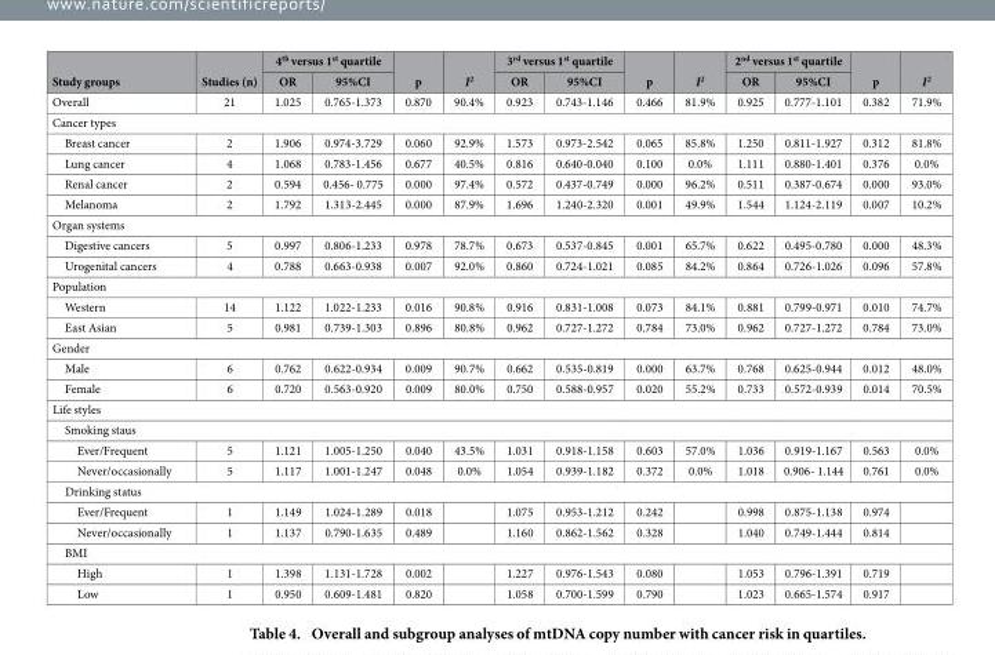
<table><thead><tr><td rowspan="2">Study groups</td><td rowspan="2">Studies (n)</td><td colspan="2">4<sup>th</sup> versus 1<sup>st</sup> quartile</td><td rowspan="2">p</td><td rowspan="2">I<sup>2</sup></td><td colspan="2">3<sup>rd</sup> versus 1<sup>st</sup> quartile</td><td rowspan="2">p</td><td rowspan="2">I<sup>2</sup></td><td colspan="2">2<sup>nd</sup> versus 1<sup>st</sup> quartile</td><td rowspan="2">p</td><td rowspan="2">I<sup>2</sup></td></tr><tr><td>OR</td><td>95%CI</td><td>OR</td><td>95%CI</td><td>OR</td><td>95%CI</td></tr></thead><tbody><tr><td>Overall</td><td>21</td><td>1.025</td><td>0.765-1.373</td><td>0.870</td><td>90.4%</td><td>0.923</td><td>0.743-1.146</td><td>0.466</td><td>81.9%</td><td>0.925</td><td>0.777-1.101</td><td>0.382</td><td>71.9%</td></tr><tr><td colspan="14">Cancer types</td></tr><tr><td>Breast cancer</td><td>2</td><td>1.906</td><td>0.974-3.729</td><td>0.060</td><td>92.9%</td><td>1.573</td><td>0.973-2.542</td><td>0.065</td><td>85.8%</td><td>1.250</td><td>0.811-1.927</td><td>0.312</td><td>81.8%</td></tr><tr><td>Lung cancer</td><td>4</td><td>1.068</td><td>0.783-1.456</td><td>0.677</td><td>40.5%</td><td>0.816</td><td>0.640-0.040</td><td>0.100</td><td>0.0%</td><td>1.111</td><td>0.880-1.401</td><td>0.376</td><td>0.0%</td></tr><tr><td>Renal cancer</td><td>2</td><td>0.594</td><td>0.456- 0.775</td><td>0.000</td><td>97.4%</td><td>0.572</td><td>0.437-0.749</td><td>0.000</td><td>96.2%</td><td>0.511</td><td>0.387-0.674</td><td>0.000</td><td>93.0%</td></tr><tr><td>Melanoma</td><td>2</td><td>1.792</td><td>1.313-2.445</td><td>0.000</td><td>87.9%</td><td>1.696</td><td>1.240-2.320</td><td>0.001</td><td>49.9%</td><td>1.544</td><td>1.124-2.119</td><td>0.007</td><td>10.2%</td></tr><tr><td colspan="14">Organ systems</td></tr><tr><td>Digestive cancers</td><td>5</td><td>0.997</td><td>0.806-1.233</td><td>0.978</td><td>78.7%</td><td>0.673</td><td>0.537-0.845</td><td>0.001</td><td>65.7%</td><td>0.622</td><td>0.495-0.780</td><td>0.000</td><td>48.3%</td></tr><tr><td>Urogenital cancers</td><td>4</td><td>0.788</td><td>0.663-0.938</td><td>0.007</td><td>92.0%</td><td>0.860</td><td>0.724-1.021</td><td>0.085</td><td>84.2%</td><td>0.864</td><td>0.726-1.026</td><td>0.096</td><td>57.8%</td></tr><tr><td colspan="14">Population</td></tr><tr><td>Western</td><td>14</td><td>1.122</td><td>1.022-1.233</td><td>0.016</td><td>90.8%</td><td>0.916</td><td>0.831-1.008</td><td>0.073</td><td>84.1%</td><td>0.881</td><td>0.799-0.971</td><td>0.010</td><td>74.7%</td></tr><tr><td>East Asian</td><td>5</td><td>0.981</td><td>0.739-1.303</td><td>0.896</td><td>80.8%</td><td>0.962</td><td>0.727-1.272</td><td>0.784</td><td>73.0%</td><td>0.962</td><td>0.727-1.272</td><td>0.784</td><td>73.0%</td></tr><tr><td colspan="14">Gender</td></tr><tr><td>Male</td><td>6</td><td>0.762</td><td>0.622-0.934</td><td>0.009</td><td>90.7%</td><td>0.662</td><td>0.535-0.819</td><td>0.000</td><td>63.7%</td><td>0.768</td><td>0.625-0.944</td><td>0.012</td><td>48.0%</td></tr><tr><td>Female</td><td>6</td><td>0.720</td><td>0.563-0.920</td><td>0.009</td><td>80.0%</td><td>0.750</td><td>0.588-0.957</td><td>0.020</td><td>55.2%</td><td>0.733</td><td>0.572-0.939</td><td>0.014</td><td>70.5%</td></tr><tr><td colspan="14">Life styles</td></tr><tr><td colspan="14">Smoking staus</td></tr><tr><td>Ever/Frequent</td><td>5</td><td>1.121</td><td>1.005-1.250</td><td>0.040</td><td>43.5%</td><td>1.031</td><td>0.918-1.158</td><td>0.603</td><td>57.0%</td><td>1.036</td><td>0.919-1.167</td><td>0.563</td><td>0.0%</td></tr><tr><td>Never/occasionally</td><td>5</td><td>1.117</td><td>1.001-1.247</td><td>0.048</td><td>0.0%</td><td>1.054</td><td>0.939-1.182</td><td>0.372</td><td>0.0%</td><td>1.018</td><td>0.906- 1.144</td><td>0.761</td><td>0.0%</td></tr><tr><td colspan="14">Drinking status</td></tr><tr><td>Ever/Frequent</td><td>1</td><td>1.149</td><td>1.024-1.289</td><td>0.018</td><td></td><td>1.075</td><td>0.953-1.212</td><td>0.242</td><td></td><td>0.998</td><td>0.875-1.138</td><td>0.974</td><td></td></tr><tr><td>Never/occasionally</td><td>1</td><td>1.137</td><td>0.790-1.635</td><td>0.489</td><td></td><td>1.160</td><td>0.862-1.562</td><td>0.328</td><td></td><td>1.040</td><td>0.749-1.444</td><td>0.814</td><td></td></tr><tr><td colspan="14">BMI</td></tr><tr><td>High</td><td>1</td><td>1.398</td><td>1.131-1.728</td><td>0.002</td><td></td><td>1.227</td><td>0.976-1.543</td><td>0.080</td><td></td><td>1.053</td><td>0.796-1.391</td><td>0.719</td><td></td></tr><tr><td>Low</td><td>1</td><td>0.950</td><td>0.609-1.481</td><td>0.820</td><td></td><td>1.058</td><td>0.700-1.599</td><td>0.790</td><td></td><td>1.023</td><td>0.665-1.574</td><td>0.917</td><td></td></tr></tbody></table>